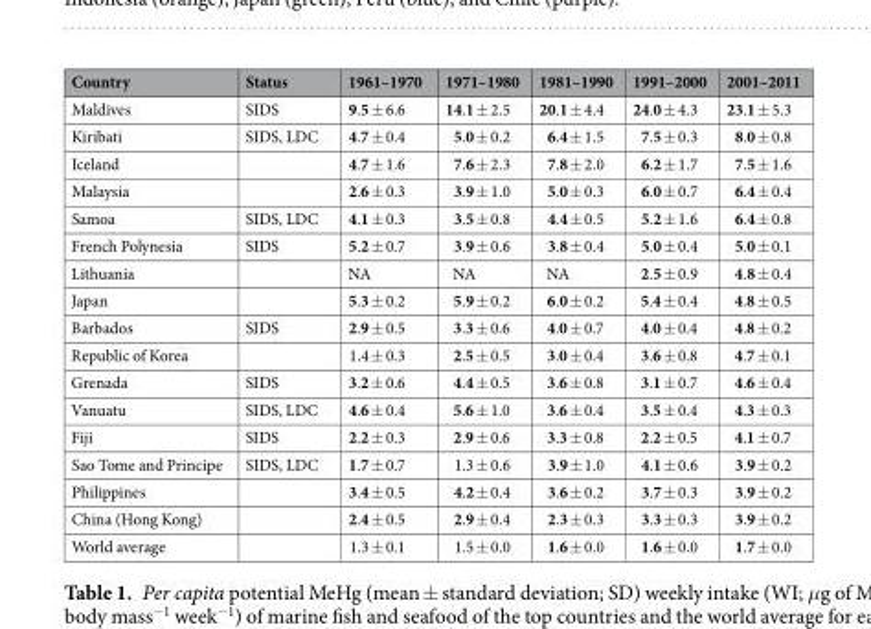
<table><thead><tr><td>Country</td><td>Status</td><td>1961–1970</td><td>1971–1980</td><td>1981–1990</td><td>1991–2000</td><td>2001–2011</td></tr></thead><tbody><tr><td>Maldives</td><td>SIDS</td><td>9.5 ± 6.6</td><td>14.1 ± 2.5</td><td>20.1 ± 4.4</td><td>24.0 ± 4.3</td><td>23.1 ± 5.3</td></tr><tr><td>Kiribati</td><td>SIDS, LDC</td><td>4.7 ± 0.4</td><td>5.0 ± 0.2</td><td>6.4 ± 1.5</td><td>7.5 ± 0.3</td><td>8.0 ± 0.8</td></tr><tr><td>Iceland</td><td></td><td>4.7 ± 1.6</td><td>7.6 ± 2.3</td><td>7.8 ± 2.0</td><td>6.2 ± 1.7</td><td>7.5 ± 1.6</td></tr><tr><td>Malaysia</td><td></td><td>2.6 ± 0.3</td><td>3.9 ± 1.0</td><td>5.0 ± 0.3</td><td>6.0 ± 0.7</td><td>6.4 ± 0.4</td></tr><tr><td>Samoa</td><td>SIDS, LDC</td><td>4.1 ± 0.3</td><td>3.5 ± 0.8</td><td>4.4 ± 0.5</td><td>5.2 ± 1.6</td><td>6.4 ± 0.8</td></tr><tr><td>French Polynesia</td><td>SIDS</td><td>5.2 ± 0.7</td><td>3.9 ± 0.6</td><td>3.8 ± 0.4</td><td>5.0 ± 0.4</td><td>5.0 ± 0.1</td></tr><tr><td>Lithuania</td><td></td><td>NA</td><td>NA</td><td>NA</td><td>2.5 ± 0.9</td><td>4.8 ± 0.4</td></tr><tr><td>Japan</td><td></td><td>5.3 ± 0.2</td><td>5.9 ± 0.2</td><td>6.0 ± 0.2</td><td>5.4 ± 0.4</td><td>4.8 ± 0.5</td></tr><tr><td>Barbados</td><td>SIDS</td><td>2.9 ± 0.5</td><td>3.3 ± 0.6</td><td>4.0 ± 0.7</td><td>4.0 ± 0.4</td><td>4.8 ± 0.2</td></tr><tr><td>Republic of Korea</td><td></td><td>1.4 ± 0.3</td><td>2.5 ± 0.5</td><td>3.0 ± 0.4</td><td>3.6 ± 0.8</td><td>4.7 ± 0.1</td></tr><tr><td>Grenada</td><td>SIDS</td><td>3.2 ± 0.6</td><td>4.4 ± 0.5</td><td>3.6 ± 0.8</td><td>3.1 ± 0.7</td><td>4.6 ± 0.4</td></tr><tr><td>Vanuatu</td><td>SIDS, LDC</td><td>4.6 ± 0.4</td><td>5.6 ± 1.0</td><td>3.6 ± 0.4</td><td>3.5 ± 0.4</td><td>4.3 ± 0.3</td></tr><tr><td>Fiji</td><td>SIDS</td><td>2.2 ± 0.3</td><td>2.9 ± 0.6</td><td>3.3 ± 0.8</td><td>2.2 ± 0.5</td><td>4.1 ± 0.7</td></tr><tr><td>Sao Tome and Principe</td><td>SIDS, LDC</td><td>1.7 ± 0.7</td><td>1.3 ± 0.6</td><td>3.9 ± 1.0</td><td>4.1 ± 0.6</td><td>3.9 ± 0.2</td></tr><tr><td>Philippines</td><td></td><td>3.4 ± 0.5</td><td>4.2 ± 0.4</td><td>3.6 ± 0.2</td><td>3.7 ± 0.3</td><td>3.9 ± 0.2</td></tr><tr><td>China (Hong Kong)</td><td></td><td>2.4 ± 0.5</td><td>2.9 ± 0.4</td><td>2.3 ± 0.3</td><td>3.3 ± 0.3</td><td>3.9 ± 0.2</td></tr><tr><td>World average</td><td></td><td>1.3 ± 0.1</td><td>1.5 ± 0.0</td><td>1.6 ± 0.0</td><td>1.6 ± 0.0</td><td>1.7 ± 0.0</td></tr></tbody></table>